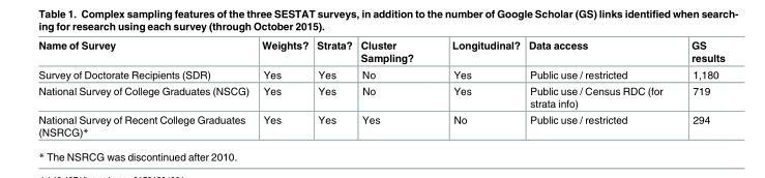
<table><thead><tr><td>Name of Survey</td><td>Weights?</td><td>Strata?</td><td>Cluster Sampling?</td><td>Longitudinal?</td><td>Data access</td><td>GS results</td></tr></thead><tbody><tr><td>Survey of Doctorate Recipients (SDR)</td><td>Yes</td><td>Yes</td><td>No</td><td>Yes</td><td>Public use / restricted</td><td>1,180</td></tr><tr><td>National Survey of College Graduates (NSCG)</td><td>Yes</td><td>Yes</td><td>No</td><td>Yes</td><td>Public use / Census RDC (for strata info)</td><td>719</td></tr><tr><td>National Survey of Recent College Graduates (NSRCG)*</td><td>Yes</td><td>Yes</td><td>Yes</td><td>No</td><td>Public use / restricted</td><td>294</td></tr></tbody></table>